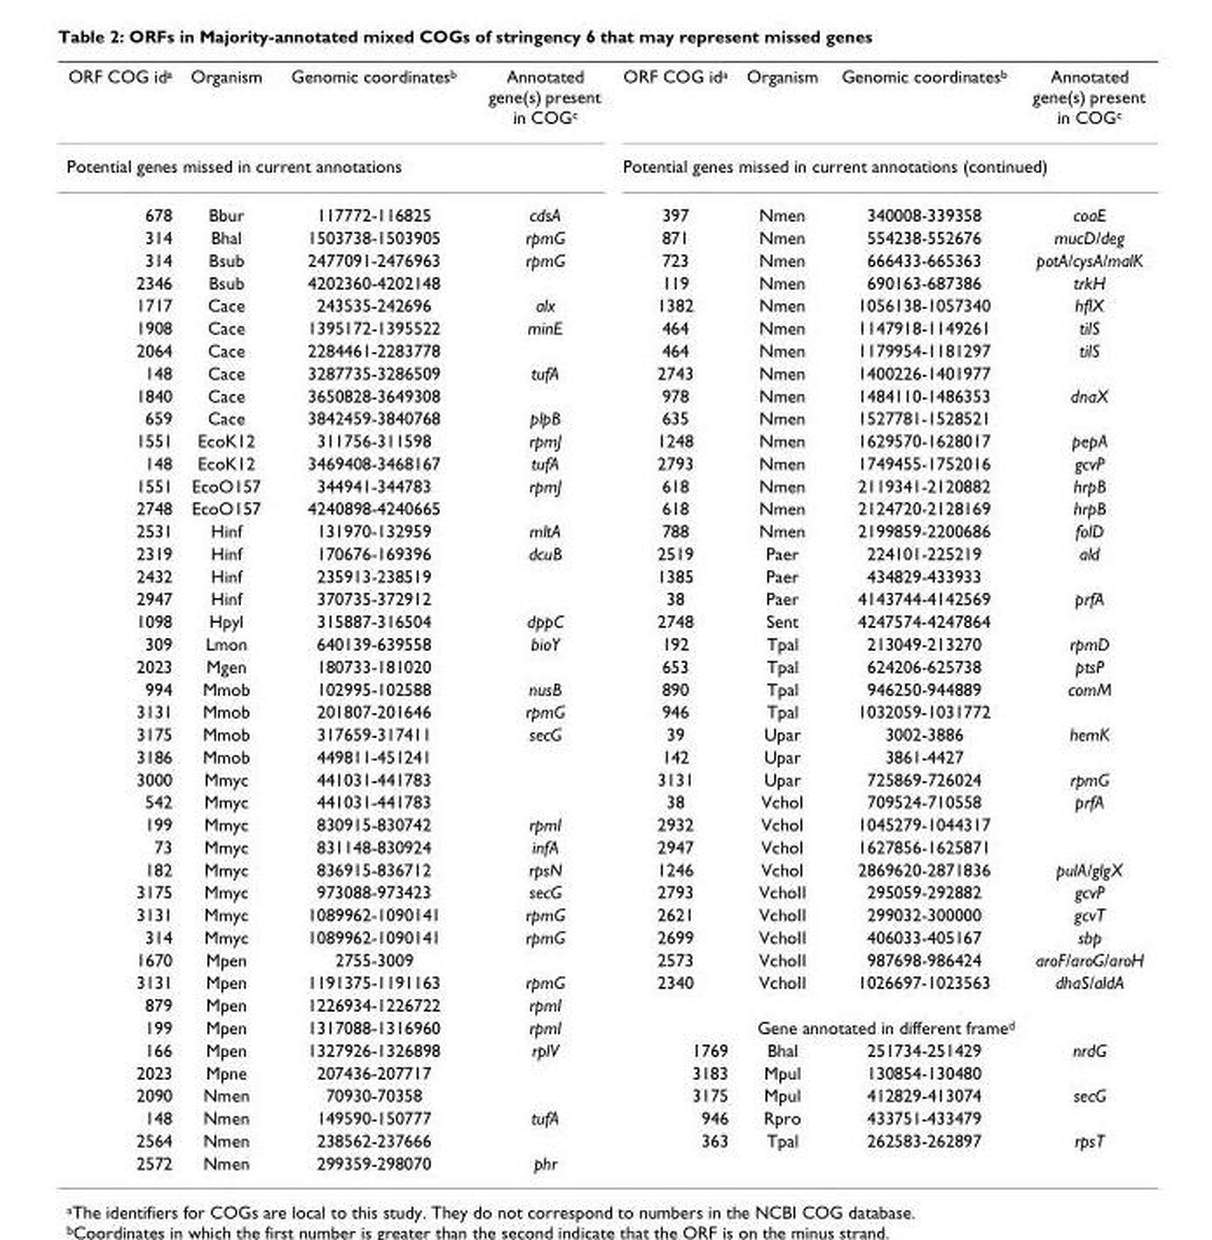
<table><tbody><tr><td>ORF COG ida</td><td>Organism</td><td>Genomic coordinatesb</td><td>Annotated gene(s) present in COGc</td><td>ORF COG ida</td><td>Organism</td><td>Genomic coordinatesb</td><td>Annotated gene(s) present in COGc</td></tr><tr><td colspan="4">Potential genes missed in current annotations</td><td colspan="4">Potential genes missed in current annotations (continued)</td></tr><tr><td>678</td><td>Bbur</td><td>117772-116825</td><td>cdsA</td><td>397</td><td>Nmen</td><td>340008-339358</td><td>coaE</td></tr><tr><td>314</td><td>Bhal</td><td>1503738-1503905</td><td>rpmG</td><td>871</td><td>Nmen</td><td>554238-552676</td><td>mucD/deg</td></tr><tr><td>314</td><td>Bsub</td><td>2477091-2476963</td><td>rpmG</td><td>723</td><td>Nmen</td><td>666433-665363</td><td>potA/cysA/malK</td></tr><tr><td>2346</td><td>Bsub</td><td>4202360-4202148</td><td></td><td>119</td><td>Nmen</td><td>690163-687386</td><td>trkH</td></tr><tr><td>1717</td><td>Cace</td><td>243535-242696</td><td>alx</td><td>1382</td><td>Nmen</td><td>1056138-1057340</td><td>hflX</td></tr><tr><td>1908</td><td>Cace</td><td>1395172-1395522</td><td>minE</td><td>464</td><td>Nmen</td><td>1147918-1149261</td><td>tilS</td></tr><tr><td>2064</td><td>Cace</td><td>2284461-2283778</td><td></td><td>464</td><td>Nmen</td><td>1179954-1181297</td><td>tilS</td></tr><tr><td>148</td><td>Cace</td><td>3287735-3286509</td><td>tufA</td><td>2743</td><td>Nmen</td><td>1400226-1401977</td><td></td></tr><tr><td>1840</td><td>Cace</td><td>3650828-3649308</td><td></td><td>978</td><td>Nmen</td><td>1484110-1486353</td><td>dnaX</td></tr><tr><td>659</td><td>Cace</td><td>3842459-3840768</td><td>plpB</td><td>635</td><td>Nmen</td><td>1527781-1528521</td><td></td></tr><tr><td>1551</td><td>EcoK12</td><td>311756-311598</td><td>rpmJ</td><td>1248</td><td>Nmen</td><td>1629570-1628017</td><td>pepA</td></tr><tr><td>148</td><td>EcoK12</td><td>3469408-3468167</td><td>tufA</td><td>2793</td><td>Nmen</td><td>1749455-1752016</td><td>gcvP</td></tr><tr><td>1551</td><td>EcoO157</td><td>344941-344783</td><td>rpmJ</td><td>618</td><td>Nmen</td><td>2119341-2120882</td><td>hrpB</td></tr><tr><td>2748</td><td>EcoO157</td><td>4240898-4240665</td><td></td><td>618</td><td>Nmen</td><td>2124720-2128169</td><td>hrpB</td></tr><tr><td>2531</td><td>Hinf</td><td>131970-132959</td><td>mltA</td><td>788</td><td>Nmen</td><td>2199859-2200686</td><td>folD</td></tr><tr><td>2319</td><td>Hinf</td><td>170676-169396</td><td>dcuB</td><td>2519</td><td>Paer</td><td>224101-225219</td><td>ald</td></tr><tr><td>2432</td><td>Hinf</td><td>235913-238519</td><td></td><td>1385</td><td>Paer</td><td>434829-433933</td><td></td></tr><tr><td>2947</td><td>Hinf</td><td>370735-372912</td><td></td><td>38</td><td>Paer</td><td>4143744-4142569</td><td>prfA</td></tr><tr><td>1098</td><td>Hpyl</td><td>315887-316504</td><td>dppC</td><td>2748</td><td>Sent</td><td>4247574-4247864</td><td></td></tr><tr><td>309</td><td>Lmon</td><td>640139-639558</td><td>bioY</td><td>192</td><td>Tpal</td><td>213049-213270</td><td>rpmD</td></tr><tr><td>2023</td><td>Mgen</td><td>180733-181020</td><td></td><td>653</td><td>Tpal</td><td>624206-625738</td><td>ptsP</td></tr><tr><td>994</td><td>Mmob</td><td>102995-102588</td><td>nusB</td><td>890</td><td>Tpal</td><td>946250-944889</td><td>comM</td></tr><tr><td>3131</td><td>Mmob</td><td>201807-201646</td><td>rpmG</td><td>946</td><td>Tpal</td><td>1032059-1031772</td><td></td></tr><tr><td>3175</td><td>Mmob</td><td>317659-317411</td><td>secG</td><td>39</td><td>Upar</td><td>3002-3886</td><td>hemK</td></tr><tr><td>3186</td><td>Mmob</td><td>449811-451241</td><td></td><td>142</td><td>Upar</td><td>3861-4427</td><td></td></tr><tr><td>3000</td><td>Mmyc</td><td>441031-441783</td><td></td><td>3131</td><td>Upar</td><td>725869-726024</td><td>rpmG</td></tr><tr><td>542</td><td>Mmyc</td><td>441031-441783</td><td></td><td>38</td><td>VchoI</td><td>709524-710558</td><td>prfA</td></tr><tr><td>199</td><td>Mmyc</td><td>830915-830742</td><td>rpmI</td><td>2932</td><td>VchoI</td><td>1045279-1044317</td><td></td></tr><tr><td>73</td><td>Mmyc</td><td>831148-830924</td><td>infA</td><td>2947</td><td>VchoI</td><td>1627856-1625871</td><td></td></tr><tr><td>182</td><td>Mmyc</td><td>836915-836712</td><td>rpsN</td><td>1246</td><td>VchoI</td><td>2869620-2871836</td><td>pulA/glgX</td></tr><tr><td>3175</td><td>Mmyc</td><td>973088-973423</td><td>secG</td><td>2793</td><td>VchoII</td><td>295059-292882</td><td>gcvP</td></tr><tr><td>3131</td><td>Mmyc</td><td>1089962-1090141</td><td>rpmG</td><td>2621</td><td>VchoII</td><td>299032-300000</td><td>gcvT</td></tr><tr><td>314</td><td>Mmyc</td><td>1089962-1090141</td><td>rpmG</td><td>2699</td><td>VchoII</td><td>406033-405167</td><td>sbp</td></tr><tr><td>1670</td><td>Mpen</td><td>2755-3009</td><td></td><td>2573</td><td>VchoII</td><td>987698-986424</td><td>aroF/aroG/aroH</td></tr><tr><td>3131</td><td>Mpen</td><td>1191375-1191163</td><td>rpmG</td><td>2340</td><td>VchoII</td><td>1026697-1023563</td><td>dhaS/aldA</td></tr><tr><td>879</td><td>Mpen</td><td>1226934-1226722</td><td>rpmI</td><td></td><td></td><td></td><td></td></tr><tr><td>199</td><td>Mpen</td><td>1317088-1316960</td><td>rpmI</td><td colspan="4">Gene annotated in different framed</td></tr><tr><td>166</td><td>Mpen</td><td>1327926-1326898</td><td>rplV</td><td>1769</td><td>Bhal</td><td>251734-251429</td><td>nrdG</td></tr><tr><td>2023</td><td>Mpne</td><td>207436-207717</td><td></td><td>3183</td><td>Mpul</td><td>130854-130480</td><td></td></tr><tr><td>2090</td><td>Nmen</td><td>70930-70358</td><td></td><td>3175</td><td>Mpul</td><td>412829-413074</td><td>secG</td></tr><tr><td>148</td><td>Nmen</td><td>149590-150777</td><td>tufA</td><td>946</td><td>Rpro</td><td>433751-433479</td><td></td></tr><tr><td>2564</td><td>Nmen</td><td>238562-237666</td><td></td><td>363</td><td>Tpal</td><td>262583-262897</td><td>rpsT</td></tr><tr><td>2572</td><td>Nmen</td><td>299359-298070</td><td>phr</td><td></td><td></td><td></td><td></td></tr></tbody></table>